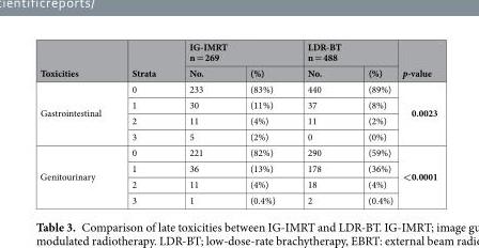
<table><thead><tr><td rowspan="2">Toxicities</td><td rowspan="2">Strata</td><td colspan="2">IG-IMRT n = 269</td><td colspan="2">LDR-BT n = 488</td><td rowspan="2">p-value</td></tr><tr><td>No.</td><td>(%)</td><td>No.</td><td>(%)</td></tr></thead><tbody><tr><td rowspan="4">Gastrointestinal</td><td>0</td><td>233</td><td>(83%)</td><td>440</td><td>(89%)</td><td rowspan="4">0.0023</td></tr><tr><td>1</td><td>30</td><td>(11%)</td><td>37</td><td>(8%)</td></tr><tr><td>2</td><td>11</td><td>(4%)</td><td>11</td><td>(2%)</td></tr><tr><td>3</td><td>5</td><td>(2%)</td><td>0</td><td>(0%)</td></tr><tr><td rowspan="4">Genitourinary</td><td>0</td><td>221</td><td>(82%)</td><td>290</td><td>(59%)</td><td rowspan="4">&lt;0.0001</td></tr><tr><td>1</td><td>36</td><td>(13%)</td><td>178</td><td>(36%)</td></tr><tr><td>2</td><td>11</td><td>(4%)</td><td>18</td><td>(4%)</td></tr><tr><td>3</td><td>1</td><td>(0.4%)</td><td>2</td><td>(0.4%)</td></tr></tbody></table>